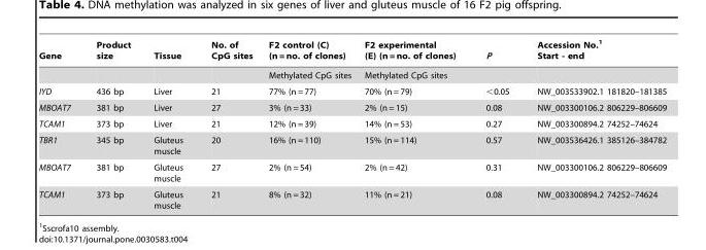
<table><thead><tr><td>Gene</td><td>Product size</td><td>Tissue</td><td>No. of CpG sites</td><td>F2 control (C) (n = no. of clones)</td><td>F2 experimental (E) (n = no. of clones)</td><td>P</td><td>Accession No.<sup>1</sup> Start - end</td></tr></thead><tbody><tr><td></td><td></td><td></td><td></td><td>Methylated CpG sites</td><td>Methylated CpG sites</td><td></td><td></td></tr><tr><td>IYD</td><td>436 bp</td><td>Liver</td><td>21</td><td>77% (n = 77)</td><td>70% (n = 79)</td><td>&lt;0.05</td><td>NW_003533902.1 181820–181385</td></tr><tr><td>MBOAT7</td><td>381 bp</td><td>Liver</td><td>27</td><td>3% (n = 33)</td><td>2% (n = 15)</td><td>0.08</td><td>NW_003300106.2 806229–806609</td></tr><tr><td>TCAM1</td><td>373 bp</td><td>Liver</td><td>21</td><td>12% (n = 39)</td><td>14% (n = 53)</td><td>0.27</td><td>NW_003300894.2 74252–74624</td></tr><tr><td>TBR1</td><td>345 bp</td><td>Gluteus muscle</td><td>20</td><td>16% (n = 110)</td><td>15% (n = 114)</td><td>0.57</td><td>NW_003536426.1 385126–384782</td></tr><tr><td>MBOAT7</td><td>381 bp</td><td>Gluteus muscle</td><td>27</td><td>2% (n = 54)</td><td>2% (n = 42)</td><td>0.31</td><td>NW_003300106.2 806229–806609</td></tr><tr><td>TCAM1</td><td>373 bp</td><td>Gluteus muscle</td><td>21</td><td>8% (n = 32)</td><td>11% (n = 21)</td><td>0.08</td><td>NW_003300894.2 74252–74624</td></tr></tbody></table>